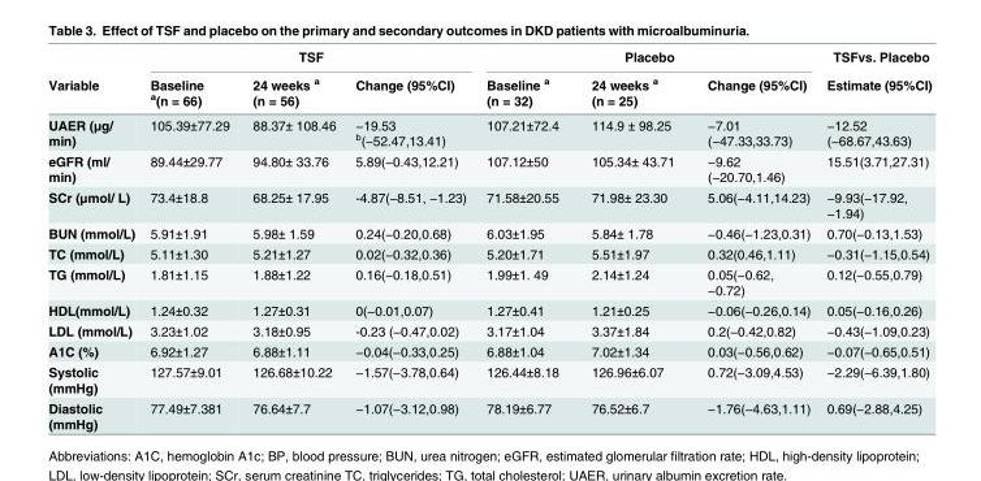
<table><thead><tr><td rowspan="2">Variable</td><td colspan="3">TSF</td><td colspan="3">Placebo</td><td rowspan="2">TSFvs. Placebo Estimate (95%CI)</td></tr><tr><td>Baseline <sup>a</sup>(n = 66)</td><td>24 weeks <sup>a</sup> (n = 56)</td><td>Change (95%CI)</td><td>Baseline <sup>a</sup> (n = 32)</td><td>24 weeks <sup>a</sup> (n = 25)</td><td>Change (95%CI)</td></tr></thead><tbody><tr><td>UAER (μg/ min)</td><td>105.39±77.29</td><td>88.37± 108.46</td><td>−19.53 <sup>b</sup>(−52.47,13.41)</td><td>107.21±72.4</td><td>114.9 ± 98.25</td><td>−7.01 (−47.33,33.73)</td><td>−12.52 (−68.67,43.63)</td></tr><tr><td>eGFR (ml/ min)</td><td>89.44±29.77</td><td>94.80± 33.76</td><td>5.89(−0.43,12.21)</td><td>107.12±50</td><td>105.34± 43.71</td><td>−9.62 (−20.70,1.46)</td><td>15.51(3.71,27.31)</td></tr><tr><td>SCr (μmol/ L)</td><td>73.4±18.8</td><td>68.25± 17.95</td><td>-4.87(−8.51, −1.23)</td><td>71.58±20.55</td><td>71.98± 23.30</td><td>5.06(−4.11,14.23)</td><td>−9.93(−17.92, −1.94)</td></tr><tr><td>BUN (mmol/L)</td><td>5.91±1.91</td><td>5.98± 1.59</td><td>0.24(−0.20,0.68)</td><td>6.03±1.95</td><td>5.84± 1.78</td><td>−0.46(−1.23,0.31)</td><td>0.70(−0.13,1.53)</td></tr><tr><td>TC (mmol/L)</td><td>5.11±1.30</td><td>5.21±1.27</td><td>0.02(−0.32,0.36)</td><td>5.20±1.71</td><td>5.51±1.97</td><td>0.32(0.46,1.11)</td><td>−0.31(−1.15,0.54)</td></tr><tr><td>TG (mmol/L)</td><td>1.81±1.15</td><td>1.88±1.22</td><td>0.16(−0.18,0.51)</td><td>1.99±1. 49</td><td>2.14±1.24</td><td>0.05(−0.62, −0.72)</td><td>0.12(−0.55,0.79)</td></tr><tr><td>HDL(mmol/L)</td><td>1.24±0.32</td><td>1.27±0.31</td><td>0(−0.01,0.07)</td><td>1.27±0.41</td><td>1.21±0.25</td><td>−0.06(−0.26,0.14)</td><td>0.05(−0.16,0.26)</td></tr><tr><td>LDL (mmol/L)</td><td>3.23±1.02</td><td>3.18±0.95</td><td>-0.23 (−0.47,0.02)</td><td>3.17±1.04</td><td>3.37±1.84</td><td>0.2(−0.42,0.82)</td><td>−0.43(−1.09,0.23)</td></tr><tr><td>A1C (%)</td><td>6.92±1.27</td><td>6.88±1.11</td><td>−0.04(−0.33,0.25)</td><td>6.88±1.04</td><td>7.02±1.34</td><td>0.03(−0.56,0.62)</td><td>−0.07(−0.65,0.51)</td></tr><tr><td>Systolic (mmHg)</td><td>127.57±9.01</td><td>126.68±10.22</td><td>−1.57(−3.78,0.64)</td><td>126.44±8.18</td><td>126.96±6.07</td><td>0.72(−3.09,4.53)</td><td>−2.29(−6.39,1.80)</td></tr><tr><td>Diastolic (mmHg)</td><td>77.49±7.381</td><td>76.64±7.7</td><td>−1.07(−3.12,0.98)</td><td>78.19±6.77</td><td>76.52±6.7</td><td>−1.76(−4.63,1.11)</td><td>0.69(−2.88,4.25)</td></tr></tbody></table>